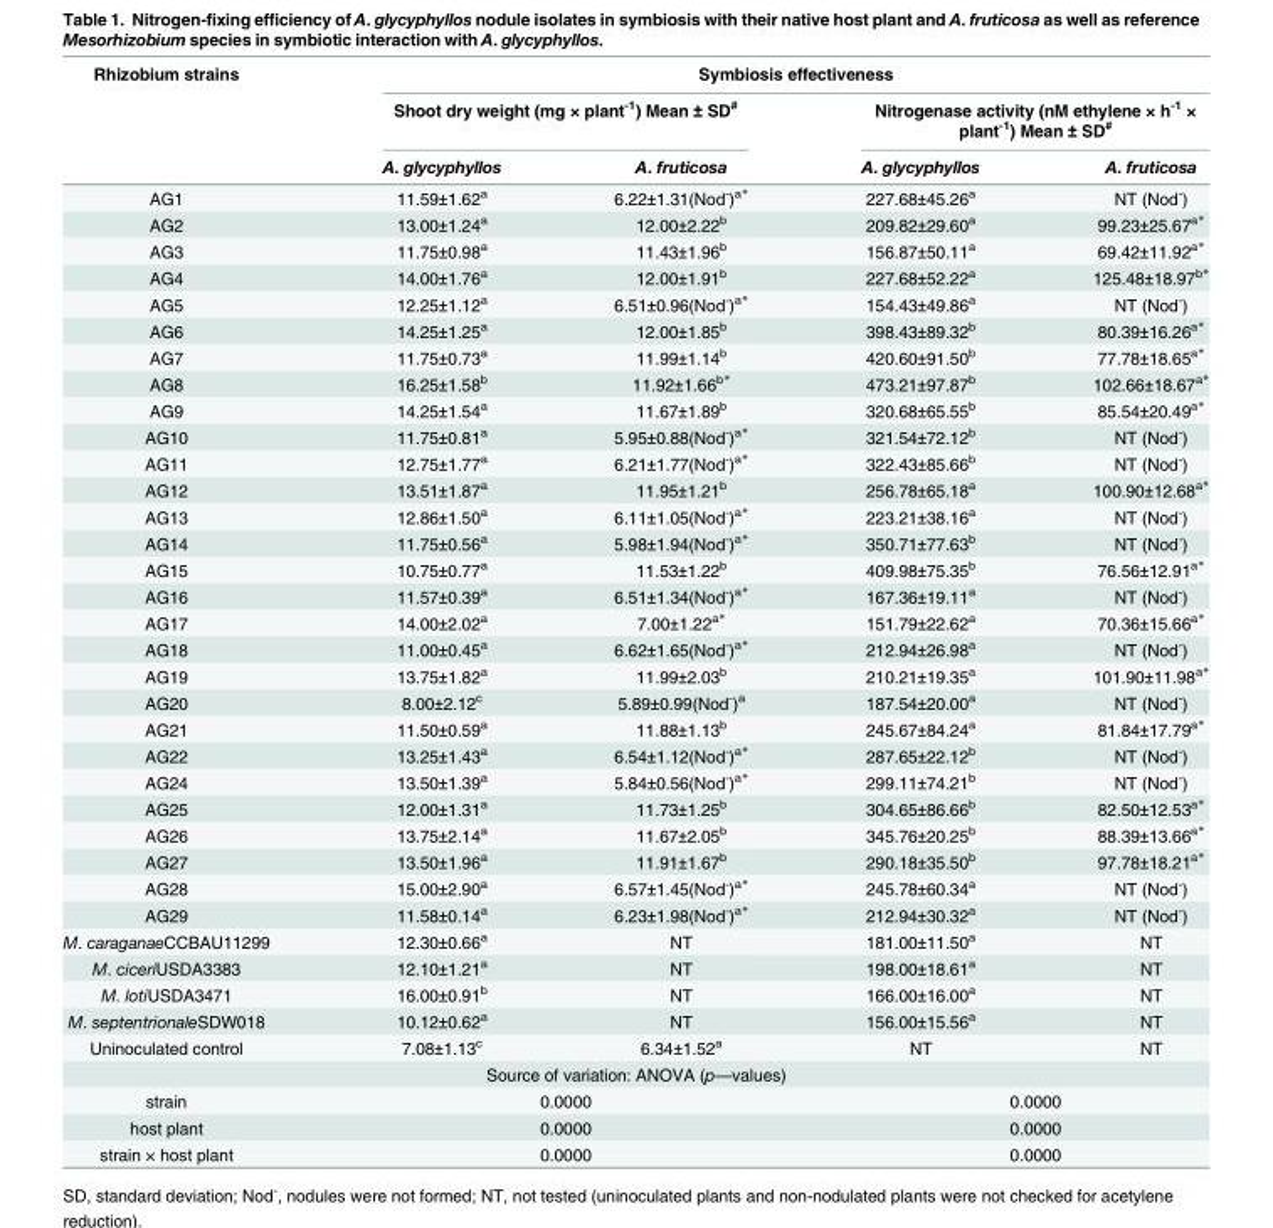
<table><thead><tr><td rowspan="3">Rhizobium strains</td><td colspan="4">Symbiosis effectiveness</td></tr><tr><td colspan="2">Shoot dry weight (mg × plant<sup>-1</sup>) Mean ± SD<sup>#</sup></td><td colspan="2">Nitrogenase activity (nM ethylene × h<sup>-1</sup> × plant<sup>-1</sup>) Mean ± SD<sup>#</sup></td></tr><tr><td>A. glycyphyllos</td><td>A. fruticosa</td><td>A. glycyphyllos</td><td>A. fruticosa</td></tr></thead><tbody><tr><td>AG1</td><td>11.59±1.62<sup>a</sup></td><td>6.22±1.31(Nod<sup>-</sup>)<sup>a*</sup></td><td>227.68±45.26<sup>a</sup></td><td>NT (Nod<sup>-</sup>)</td></tr><tr><td>AG2</td><td>13.00±1.24<sup>a</sup></td><td>12.00±2.22<sup>b</sup></td><td>209.82±29.60<sup>a</sup></td><td>99.23±25.67<sup>a*</sup></td></tr><tr><td>AG3</td><td>11.75±0.98<sup>a</sup></td><td>11.43±1.96<sup>b</sup></td><td>156.87±50.11<sup>a</sup></td><td>69.42±11.92<sup>a*</sup></td></tr><tr><td>AG4</td><td>14.00±1.76<sup>a</sup></td><td>12.00±1.91<sup>b</sup></td><td>227.68±52.22<sup>a</sup></td><td>125.48±18.97<sup>b*</sup></td></tr><tr><td>AG5</td><td>12.25±1.12<sup>a</sup></td><td>6.51±0.96(Nod<sup>-</sup>)<sup>a*</sup></td><td>154.43±49.86<sup>a</sup></td><td>NT (Nod<sup>-</sup>)</td></tr><tr><td>AG6</td><td>14.25±1.25<sup>a</sup></td><td>12.00±1.85<sup>b</sup></td><td>398.43±89.32<sup>b</sup></td><td>80.39±16.26<sup>a*</sup></td></tr><tr><td>AG7</td><td>11.75±0.73<sup>a</sup></td><td>11.99±1.14<sup>b</sup></td><td>420.60±91.50<sup>b</sup></td><td>77.78±18.65<sup>a*</sup></td></tr><tr><td>AG8</td><td>16.25±1.58<sup>b</sup></td><td>11.92±1.66<sup>b*</sup></td><td>473.21±97.87<sup>b</sup></td><td>102.66±18.67<sup>a*</sup></td></tr><tr><td>AG9</td><td>14.25±1.54<sup>a</sup></td><td>11.67±1.89<sup>b</sup></td><td>320.68±65.55<sup>b</sup></td><td>85.54±20.49<sup>a*</sup></td></tr><tr><td>AG10</td><td>11.75±0.81<sup>a</sup></td><td>5.95±0.88(Nod<sup>-</sup>)<sup>a*</sup></td><td>321.54±72.12<sup>b</sup></td><td>NT (Nod<sup>-</sup>)</td></tr><tr><td>AG11</td><td>12.75±1.77<sup>a</sup></td><td>6.21±1.77(Nod<sup>-</sup>)<sup>a*</sup></td><td>322.43±85.66<sup>b</sup></td><td>NT (Nod<sup>-</sup>)</td></tr><tr><td>AG12</td><td>13.51±1.87<sup>a</sup></td><td>11.95±1.21<sup>b</sup></td><td>256.78±65.18<sup>a</sup></td><td>100.90±12.68<sup>a*</sup></td></tr><tr><td>AG13</td><td>12.86±1.50<sup>a</sup></td><td>6.11±1.05(Nod<sup>-</sup>)<sup>a*</sup></td><td>223.21±38.16<sup>a</sup></td><td>NT (Nod<sup>-</sup>)</td></tr><tr><td>AG14</td><td>11.75±0.56<sup>a</sup></td><td>5.98±1.94(Nod<sup>-</sup>)<sup>a*</sup></td><td>350.71±77.63<sup>b</sup></td><td>NT (Nod<sup>-</sup>)</td></tr><tr><td>AG15</td><td>10.75±0.77<sup>a</sup></td><td>11.53±1.22<sup>b</sup></td><td>409.98±75.35<sup>b</sup></td><td>76.56±12.91<sup>a*</sup></td></tr><tr><td>AG16</td><td>11.57±0.39<sup>a</sup></td><td>6.51±1.34(Nod<sup>-</sup>)<sup>a*</sup></td><td>167.36±19.11<sup>a</sup></td><td>NT (Nod<sup>-</sup>)</td></tr><tr><td>AG17</td><td>14.00±2.02<sup>a</sup></td><td>7.00±1.22<sup>a*</sup></td><td>151.79±22.62<sup>a</sup></td><td>70.36±15.66<sup>a*</sup></td></tr><tr><td>AG18</td><td>11.00±0.45<sup>a</sup></td><td>6.62±1.65(Nod<sup>-</sup>)<sup>a*</sup></td><td>212.94±26.98<sup>a</sup></td><td>NT (Nod<sup>-</sup>)</td></tr><tr><td>AG19</td><td>13.75±1.82<sup>a</sup></td><td>11.99±2.03<sup>b</sup></td><td>210.21±19.35<sup>a</sup></td><td>101.90±11.98<sup>a*</sup></td></tr><tr><td>AG20</td><td>8.00±2.12<sup>c</sup></td><td>5.89±0.99(Nod<sup>-</sup>)<sup>a</sup></td><td>187.54±20.00<sup>a</sup></td><td>NT (Nod<sup>-</sup>)</td></tr><tr><td>AG21</td><td>11.50±0.59<sup>a</sup></td><td>11.88±1.13<sup>b</sup></td><td>245.67±84.24<sup>a</sup></td><td>81.84±17.79<sup>a*</sup></td></tr><tr><td>AG22</td><td>13.25±1.43<sup>a</sup></td><td>6.54±1.12(Nod<sup>-</sup>)<sup>a*</sup></td><td>287.65±22.12<sup>b</sup></td><td>NT (Nod<sup>-</sup>)</td></tr><tr><td>AG24</td><td>13.50±1.39<sup>a</sup></td><td>5.84±0.56(Nod<sup>-</sup>)<sup>a*</sup></td><td>299.11±74.21<sup>b</sup></td><td>NT (Nod<sup>-</sup>)</td></tr><tr><td>AG25</td><td>12.00±1.31<sup>a</sup></td><td>11.73±1.25<sup>b</sup></td><td>304.65±86.66<sup>b</sup></td><td>82.50±12.53<sup>a*</sup></td></tr><tr><td>AG26</td><td>13.75±2.14<sup>a</sup></td><td>11.67±2.05<sup>b</sup></td><td>345.76±20.25<sup>b</sup></td><td>88.39±13.66<sup>a*</sup></td></tr><tr><td>AG27</td><td>13.50±1.96<sup>a</sup></td><td>11.91±1.67<sup>b</sup></td><td>290.18±35.50<sup>b</sup></td><td>97.78±18.21<sup>a*</sup></td></tr><tr><td>AG28</td><td>15.00±2.90<sup>a</sup></td><td>6.57±1.45(Nod<sup>-</sup>)<sup>a*</sup></td><td>245.78±60.34<sup>a</sup></td><td>NT (Nod<sup>-</sup>)</td></tr><tr><td>AG29</td><td>11.58±0.14<sup>a</sup></td><td>6.23±1.98(Nod<sup>-</sup>)<sup>a*</sup></td><td>212.94±30.32<sup>a</sup></td><td>NT (Nod<sup>-</sup>)</td></tr><tr><td>M. caraganaeCCBAU11299</td><td>12.30±0.66<sup>a</sup></td><td>NT</td><td>181.00±11.50<sup>a</sup></td><td>NT</td></tr><tr><td>M. ciceriUSDA3383</td><td>12.10±1.21<sup>a</sup></td><td>NT</td><td>198.00±18.61<sup>a</sup></td><td>NT</td></tr><tr><td>M. lotiUSDA3471</td><td>16.00±0.91<sup>b</sup></td><td>NT</td><td>166.00±16.00<sup>a</sup></td><td>NT</td></tr><tr><td>M. septentrionaleSDW018</td><td>10.12±0.62<sup>a</sup></td><td>NT</td><td>156.00±15.56<sup>a</sup></td><td>NT</td></tr><tr><td>Uninoculated control</td><td>7.08±1.13<sup>c</sup></td><td>6.34±1.52<sup>a</sup></td><td>NT</td><td>NT</td></tr><tr><td colspan="5">Source of variation: ANOVA (p—values)</td></tr><tr><td>strain</td><td colspan="2">0.0000</td><td colspan="2">0.0000</td></tr><tr><td>host plant</td><td colspan="2">0.0000</td><td colspan="2">0.0000</td></tr><tr><td>strain × host plant</td><td colspan="2">0.0000</td><td colspan="2">0.0000</td></tr></tbody></table>